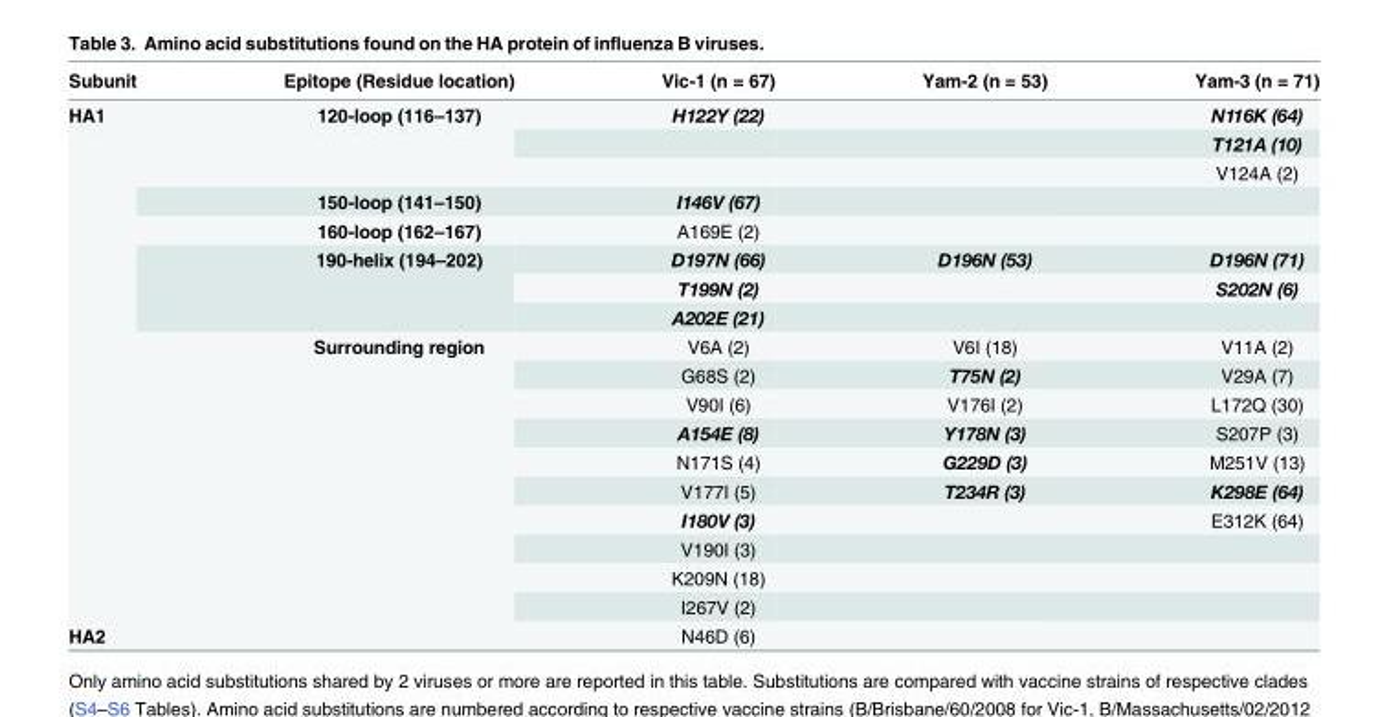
<table><thead><tr><td>Subunit</td><td>Epitope (Residue location)</td><td>Vic-1 (n = 67)</td><td>Yam-2 (n = 53)</td><td>Yam-3 (n = 71)</td></tr></thead><tbody><tr><td rowspan="18">HA1</td><td rowspan="3">120-loop (116–137)</td><td>H122Y (22)</td><td></td><td>N116K (64)</td></tr><tr><td></td><td></td><td>T121A (10)</td></tr><tr><td></td><td></td><td>V124A (2)</td></tr><tr><td>150-loop (141–150)</td><td>I146V (67)</td><td></td><td></td></tr><tr><td>160-loop (162–167)</td><td>A169E (2)</td><td></td><td></td></tr><tr><td rowspan="3">190-helix (194–202)</td><td>D197N (66)</td><td>D196N (53)</td><td>D196N (71)</td></tr><tr><td>T199N (2)</td><td></td><td>S202N (6)</td></tr><tr><td>A202E (21)</td><td></td><td></td></tr><tr><td rowspan="10">Surrounding region</td><td>V6A (2)</td><td>V6I (18)</td><td>V11A (2)</td></tr><tr><td>G68S (2)</td><td>T75N (2)</td><td>V29A (7)</td></tr><tr><td>V90I (6)</td><td>V176I (2)</td><td>L172Q (30)</td></tr><tr><td>A154E (8)</td><td>Y178N (3)</td><td>S207P (3)</td></tr><tr><td>N171S (4)</td><td>G229D (3)</td><td>M251V (13)</td></tr><tr><td>V177I (5)</td><td>T234R (3)</td><td>K298E (64)</td></tr><tr><td>I180V (3)</td><td></td><td>E312K (64)</td></tr><tr><td>V190I (3)</td><td></td><td></td></tr><tr><td>K209N (18)</td><td></td><td></td></tr><tr><td>I267V (2)</td><td></td><td></td></tr><tr><td colspan="2">HA2</td><td>N46D (6)</td><td></td><td></td></tr></tbody></table>